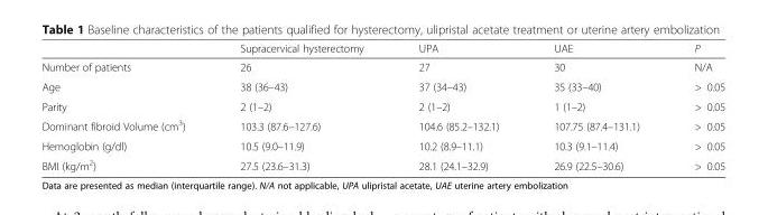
<table><thead><tr><td></td><td>Supracervical hysterectomy</td><td>UPA</td><td>UAE</td><td>P</td></tr></thead><tbody><tr><td>Number of patients</td><td>26</td><td>27</td><td>30</td><td>N/A</td></tr><tr><td>Age</td><td>38 (36–43)</td><td>37 (34–43)</td><td>35 (33–40)</td><td>&gt; 0.05</td></tr><tr><td>Parity</td><td>2 (1–2)</td><td>2 (1–2)</td><td>1 (1–2)</td><td>&gt; 0.05</td></tr><tr><td>Dominant fibroid Volume (cm<sup>3</sup>)</td><td>103.3 (87.6–127.6)</td><td>104.6 (85.2–132.1)</td><td>107.75 (87.4–131.1)</td><td>&gt; 0.05</td></tr><tr><td>Hemoglobin (g/dl)</td><td>10.5 (9.0–11.9)</td><td>10.2 (8.9–11.1)</td><td>10.3 (9.1–11.4)</td><td>&gt; 0.05</td></tr><tr><td>BMI (kg/m<sup>2</sup>)</td><td>27.5 (23.6–31.3)</td><td>28.1 (24.1–32.9)</td><td>26.9 (22.5–30.6)</td><td>&gt; 0.05</td></tr></tbody></table>